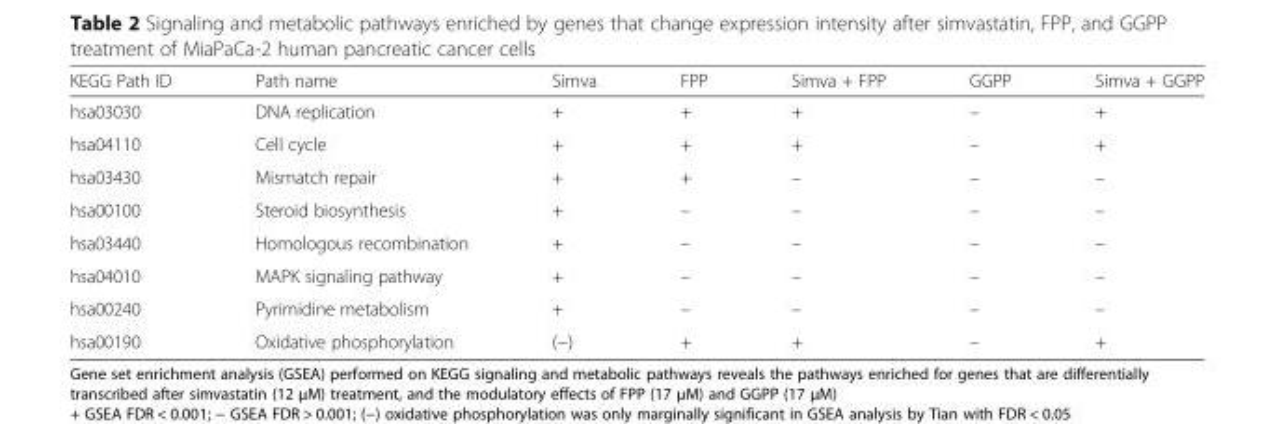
<table><thead><tr><td>KEGG Path ID</td><td>Path name</td><td>Simva</td><td>FPP</td><td>Simva + FPP</td><td>GGPP</td><td>Simva + GGPP</td></tr></thead><tbody><tr><td>hsa03030</td><td>DNA replication</td><td>+</td><td>+</td><td>+</td><td>–</td><td>+</td></tr><tr><td>hsa04110</td><td>Cell cycle</td><td>+</td><td>+</td><td>+</td><td>–</td><td>+</td></tr><tr><td>hsa03430</td><td>Mismatch repair</td><td>+</td><td>+</td><td>–</td><td>–</td><td>–</td></tr><tr><td>hsa00100</td><td>Steroid biosynthesis</td><td>+</td><td>–</td><td>–</td><td>–</td><td>–</td></tr><tr><td>hsa03440</td><td>Homologous recombination</td><td>+</td><td>–</td><td>–</td><td>–</td><td>–</td></tr><tr><td>hsa04010</td><td>MAPK signaling pathway</td><td>+</td><td>–</td><td>–</td><td>–</td><td>–</td></tr><tr><td>hsa00240</td><td>Pyrimidine metabolism</td><td>+</td><td>–</td><td>–</td><td>–</td><td>–</td></tr><tr><td>hsa00190</td><td>Oxidative phosphorylation</td><td>(−)</td><td>+</td><td>+</td><td>–</td><td>+</td></tr></tbody></table>